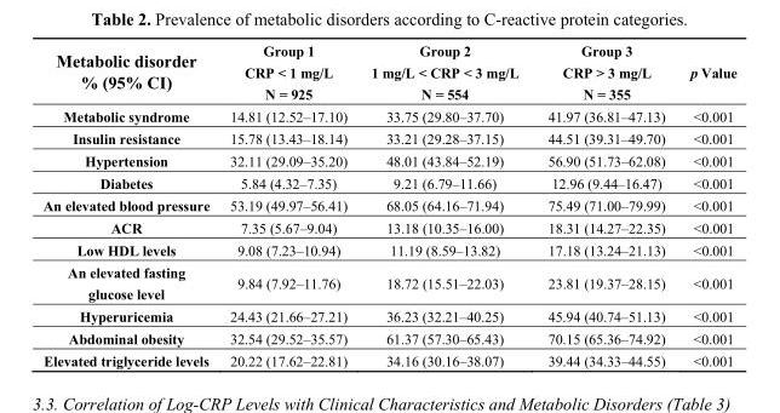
<table><thead><tr><td rowspan="3">Metabolic disorder % (95% CI)</td><td rowspan="3">Group 1 CRP &lt; 1 mg/L N = 925</td><td rowspan="3">Group 2 1 mg/L &lt; CRP &lt; 3 mg/L N = 554</td><td rowspan="3">Group 3 CRP &gt; 3 mg/L N = 355</td><td rowspan="3">p Value</td></tr><tr></tr><tr></tr></thead><tbody><tr><td>Metabolic syndrome</td><td>14.81 (12.52–17.10)</td><td>33.75 (29.80–37.70)</td><td>41.97 (36.81–47.13)</td><td>&lt;0.001</td></tr><tr><td>Insulin resistance</td><td>15.78 (13.43–18.14)</td><td>33.21 (29.28–37.15)</td><td>44.51 (39.31–49.70)</td><td>&lt;0.001</td></tr><tr><td>Hypertension</td><td>32.11 (29.09–35.20)</td><td>48.01 (43.84–52.19)</td><td>56.90 (51.73–62.08)</td><td>&lt;0.001</td></tr><tr><td>Diabetes</td><td>5.84 (4.32–7.35)</td><td>9.21 (6.79–11.66)</td><td>12.96 (9.44–16.47)</td><td>&lt;0.001</td></tr><tr><td>An elevated blood pressure</td><td>53.19 (49.97–56.41)</td><td>68.05 (64.16–71.94)</td><td>75.49 (71.00–79.99)</td><td>&lt;0.001</td></tr><tr><td>ACR</td><td>7.35 (5.67–9.04)</td><td>13.18 (10.35–16.00)</td><td>18.31 (14.27–22.35)</td><td>&lt;0.001</td></tr><tr><td>Low HDL levels</td><td>9.08 (7.23–10.94)</td><td>11.19 (8.59–13.82)</td><td>17.18 (13.24–21.13)</td><td>&lt;0.001</td></tr><tr><td>An elevated fasting glucose level</td><td>9.84 (7.92–11.76)</td><td>18.72 (15.51–22.03)</td><td>23.81 (19.37–28.15)</td><td>&lt;0.001</td></tr><tr><td>Hyperuricemia</td><td>24.43 (21.66–27.21)</td><td>36.23 (32.21–40.25)</td><td>45.94 (40.74–51.13)</td><td>&lt;0.001</td></tr><tr><td>Abdominal obesity</td><td>32.54 (29.52–35.57)</td><td>61.37 (57.30–65.43)</td><td>70.15 (65.36–74.92)</td><td>&lt;0.001</td></tr><tr><td>Elevated triglyceride levels</td><td>20.22 (17.62–22.81)</td><td>34.16 (30.16–38.07)</td><td>39.44 (34.33–44.55)</td><td>&lt;0.001</td></tr></tbody></table>